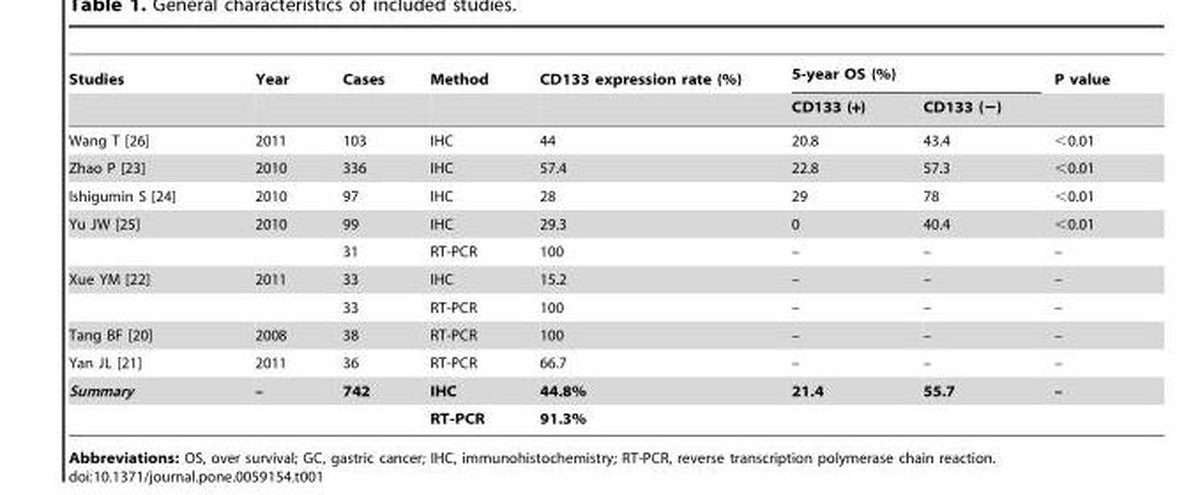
<table><thead><tr><td rowspan="2">Studies</td><td rowspan="2">Year</td><td rowspan="2">Cases</td><td rowspan="2">Method</td><td rowspan="2">CD133 expression rate (%)</td><td colspan="2">5-year OS (%)</td><td rowspan="2">P value</td></tr><tr><td>CD133 (+)</td><td>CD133 (−)</td></tr></thead><tbody><tr><td>Wang T [26]</td><td>2011</td><td>103</td><td>IHC</td><td>44</td><td>20.8</td><td>43.4</td><td>&lt;0.01</td></tr><tr><td>Zhao P [23]</td><td>2010</td><td>336</td><td>IHC</td><td>57.4</td><td>22.8</td><td>57.3</td><td>&lt;0.01</td></tr><tr><td>Ishigumin S [24]</td><td>2010</td><td>97</td><td>IHC</td><td>28</td><td>29</td><td>78</td><td>&lt;0.01</td></tr><tr><td rowspan="2">Yu JW [25]</td><td>2010</td><td>99</td><td>IHC</td><td>29.3</td><td>0</td><td>40.4</td><td>&lt;0.01</td></tr><tr><td></td><td>31</td><td>RT-PCR</td><td>100</td><td>–</td><td>–</td><td>–</td></tr><tr><td rowspan="2">Xue YM [22]</td><td>2011</td><td>33</td><td>IHC</td><td>15.2</td><td>–</td><td>–</td><td>–</td></tr><tr><td></td><td>33</td><td>RT-PCR</td><td>100</td><td>–</td><td>–</td><td>–</td></tr><tr><td>Tang BF [20]</td><td>2008</td><td>38</td><td>RT-PCR</td><td>100</td><td>–</td><td>–</td><td>–</td></tr><tr><td>Yan JL [21]</td><td>2011</td><td>36</td><td>RT-PCR</td><td>66.7</td><td>–</td><td>–</td><td>–</td></tr><tr><td rowspan="2">Summary</td><td>–</td><td>742</td><td>IHC</td><td>44.8%</td><td>21.4</td><td>55.7</td><td>–</td></tr><tr><td></td><td></td><td>RT-PCR</td><td>91.3%</td><td></td><td></td><td></td></tr></tbody></table>